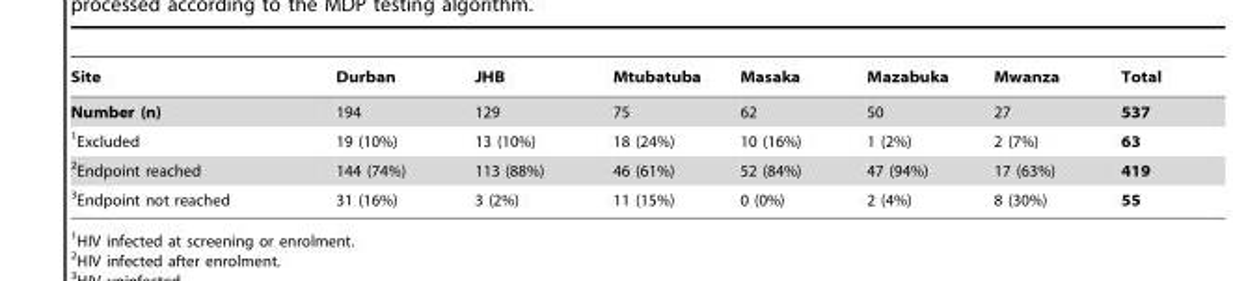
<table><thead><tr><td>Site</td><td>Durban</td><td>JHB</td><td>Mtubatuba</td><td>Masaka</td><td>Mazabuka</td><td>Mwanza</td><td>Total</td></tr></thead><tbody><tr><td>Number (n)</td><td>194</td><td>129</td><td>75</td><td>62</td><td>50</td><td>27</td><td>537</td></tr><tr><td>1Excluded</td><td>19 (10%)</td><td>13 (10%)</td><td>18 (24%)</td><td>10 (16%)</td><td>1 (2%)</td><td>2 (7%)</td><td>63</td></tr><tr><td>2Endpoint reached</td><td>144 (74%)</td><td>113 (88%)</td><td>46 (61%)</td><td>52 (84%)</td><td>47 (94%)</td><td>17 (63%)</td><td>419</td></tr><tr><td>3Endpoint not reached</td><td>31 (16%)</td><td>3 (2%)</td><td>11 (15%)</td><td>0 (0%)</td><td>2 (4%)</td><td>8 (30%)</td><td>55</td></tr></tbody></table>